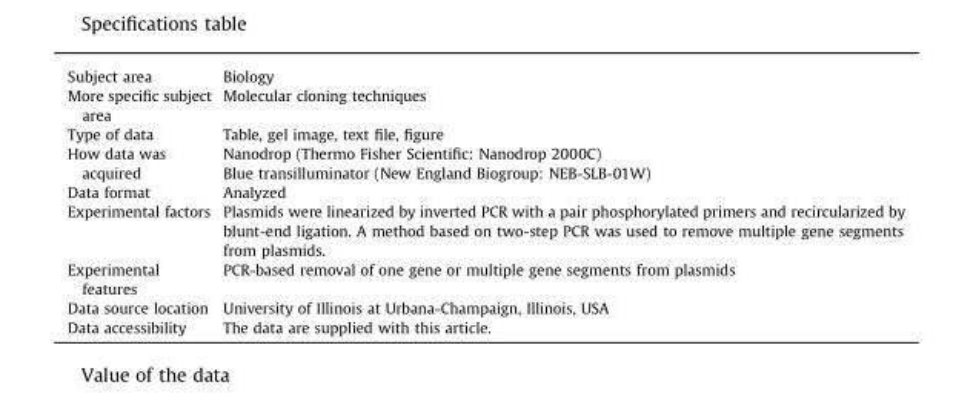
<table><tbody><tr><td>Subject area</td><td>Biology</td></tr><tr><td>More specific subject area</td><td>Molecular cloning techniques</td></tr><tr><td>Type of data</td><td>Table, gel image, text file, figure</td></tr><tr><td rowspan="2">How data was acquired</td><td>Nanodrop (Thermo Fisher Scientific: Nanodrop 2000C)</td></tr><tr><td>Blue transilluminator (New England Biogroup: NEB-SLB-01W)</td></tr><tr><td>Data format</td><td>Analyzed</td></tr><tr><td>Experimental factors</td><td>Plasmids were linearized by inverted PCR with a pair phosphorylated primers and recircularized by blunt-end ligation. A method based on two-step PCR was used to remove multiple gene segments from plasmids.</td></tr><tr><td>Experimental features</td><td>PCR-based removal of one gene or multiple gene segments from plasmids</td></tr><tr><td>Data source location</td><td>University of Illinois at Urbana-Champaign, Illinois, USA</td></tr><tr><td>Data accessibility</td><td>The data are supplied with this article.</td></tr></tbody></table>